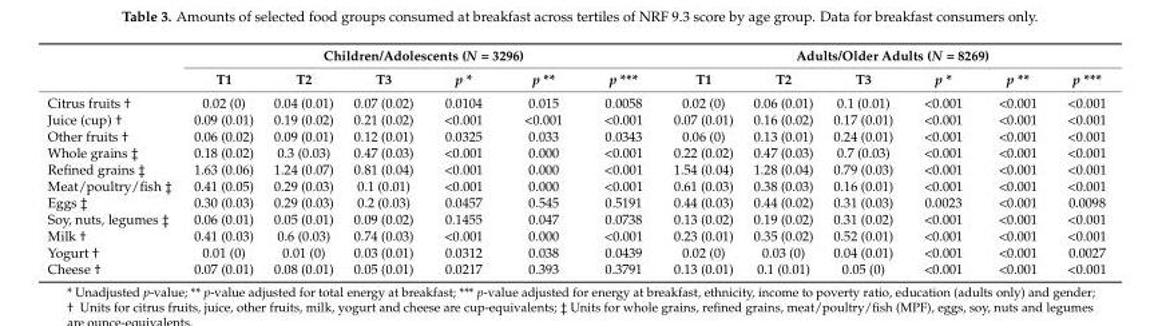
<table><thead><tr><td rowspan="2"></td><td colspan="6">Children/Adolescents (N = 3296)</td><td colspan="6">Adults/Older Adults (N = 8269)</td></tr><tr><td>T1</td><td>T2</td><td>T3</td><td>p *</td><td>p **</td><td>p ***</td><td>T1</td><td>T2</td><td>T3</td><td>p *</td><td>p **</td><td>p ***</td></tr></thead><tbody><tr><td>Citrus fruits †</td><td>0.02 (0)</td><td>0.04 (0.01)</td><td>0.07 (0.02)</td><td>0.0104</td><td>0.015</td><td>0.0058</td><td>0.02 (0)</td><td>0.06 (0.01)</td><td>0.1 (0.01)</td><td>&lt;0.001</td><td>&lt;0.001</td><td>&lt;0.001</td></tr><tr><td>Juice (cup) †</td><td>0.09 (0.01)</td><td>0.19 (0.02)</td><td>0.21 (0.02)</td><td>&lt;0.001</td><td>&lt;0.001</td><td>&lt;0.001</td><td>0.07 (0.01)</td><td>0.16 (0.02)</td><td>0.17 (0.01)</td><td>&lt;0.001</td><td>&lt;0.001</td><td>&lt;0.001</td></tr><tr><td>Other fruits †</td><td>0.06 (0.02)</td><td>0.09 (0.01)</td><td>0.12 (0.01)</td><td>0.0325</td><td>0.033</td><td>0.0343</td><td>0.06 (0)</td><td>0.13 (0.01)</td><td>0.24 (0.01)</td><td>&lt;0.001</td><td>&lt;0.001</td><td>&lt;0.001</td></tr><tr><td>Whole grains ‡</td><td>0.18 (0.02)</td><td>0.3 (0.03)</td><td>0.47 (0.03)</td><td>&lt;0.001</td><td>0.000</td><td>&lt;0.001</td><td>0.22 (0.02)</td><td>0.47 (0.03)</td><td>0.7 (0.03)</td><td>&lt;0.001</td><td>&lt;0.001</td><td>&lt;0.001</td></tr><tr><td>Refined grains ‡</td><td>1.63 (0.06)</td><td>1.24 (0.07)</td><td>0.81 (0.04)</td><td>&lt;0.001</td><td>0.000</td><td>&lt;0.001</td><td>1.54 (0.04)</td><td>1.28 (0.04)</td><td>0.79 (0.03)</td><td>&lt;0.001</td><td>&lt;0.001</td><td>&lt;0.001</td></tr><tr><td>Meat/poultry/fish ‡</td><td>0.41 (0.05)</td><td>0.29 (0.03)</td><td>0.1 (0.01)</td><td>&lt;0.001</td><td>0.000</td><td>&lt;0.001</td><td>0.61 (0.03)</td><td>0.38 (0.03)</td><td>0.16 (0.01)</td><td>&lt;0.001</td><td>&lt;0.001</td><td>&lt;0.001</td></tr><tr><td>Eggs ‡</td><td>0.30 (0.03)</td><td>0.29 (0.03)</td><td>0.2 (0.03)</td><td>0.0457</td><td>0.545</td><td>0.5191</td><td>0.44 (0.03)</td><td>0.44 (0.02)</td><td>0.31 (0.03)</td><td>0.0023</td><td>&lt;0.001</td><td>0.0098</td></tr><tr><td>Soy, nuts, legumes ‡</td><td>0.06 (0.01)</td><td>0.05 (0.01)</td><td>0.09 (0.02)</td><td>0.1455</td><td>0.047</td><td>0.0738</td><td>0.13 (0.02)</td><td>0.19 (0.02)</td><td>0.31 (0.02)</td><td>&lt;0.001</td><td>&lt;0.001</td><td>&lt;0.001</td></tr><tr><td>Milk †</td><td>0.41 (0.03)</td><td>0.6 (0.03)</td><td>0.74 (0.03)</td><td>&lt;0.001</td><td>0.000</td><td>&lt;0.001</td><td>0.23 (0.01)</td><td>0.35 (0.02)</td><td>0.52 (0.01)</td><td>&lt;0.001</td><td>&lt;0.001</td><td>&lt;0.001</td></tr><tr><td>Yogurt †</td><td>0.01 (0)</td><td>0.01 (0)</td><td>0.03 (0.01)</td><td>0.0312</td><td>0.038</td><td>0.0439</td><td>0.02 (0)</td><td>0.03 (0)</td><td>0.04 (0.01)</td><td>&lt;0.001</td><td>&lt;0.001</td><td>0.0027</td></tr><tr><td>Cheese †</td><td>0.07 (0.01)</td><td>0.08 (0.01)</td><td>0.05 (0.01)</td><td>0.0217</td><td>0.393</td><td>0.3791</td><td>0.13 (0.01)</td><td>0.1 (0.01)</td><td>0.05 (0)</td><td>&lt;0.001</td><td>&lt;0.001</td><td>&lt;0.001</td></tr></tbody></table>